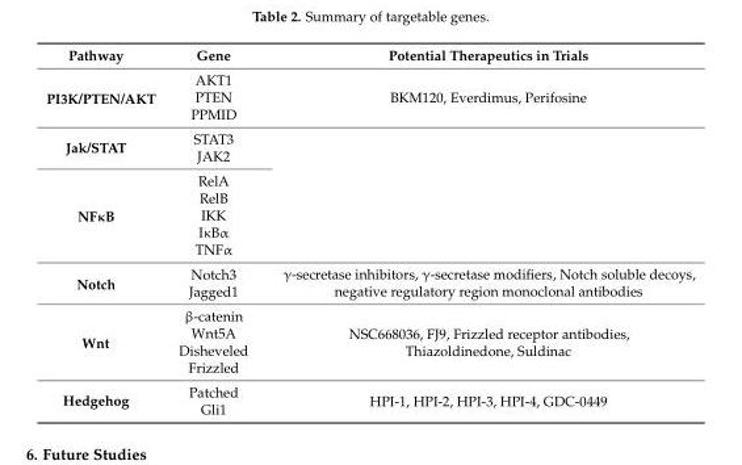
<table><thead><tr><td>Pathway</td><td>Gene</td><td>Potential Therapeutics in Trials</td></tr></thead><tbody><tr><td rowspan="3">PI3K/PTEN/AKT</td><td>AKT1</td><td rowspan="3">BKM120, Everdimus, Perifosine</td></tr><tr><td>PTEN</td></tr><tr><td>PPMID</td></tr><tr><td rowspan="2">Jak/STAT</td><td>STAT3</td><td rowspan="7"></td></tr><tr><td>JAK2</td></tr><tr><td rowspan="5">NFκB</td><td>RelA</td></tr><tr><td>RelB</td></tr><tr><td>IKK</td></tr><tr><td>IκBα</td></tr><tr><td>TNFα</td></tr><tr><td rowspan="2">Notch</td><td>Notch3</td><td rowspan="2">γ-secretase inhibitors, γ-secretase modifiers, Notch soluble decoys, negative regulatory region monoclonal antibodies</td></tr><tr><td>Jagged1</td></tr><tr><td rowspan="4">Wnt</td><td>β-catenin</td><td rowspan="4">NSC668036, FJ9, Frizzled receptor antibodies, Thiazoldinedone, Suldinac</td></tr><tr><td>Wnt5A</td></tr><tr><td>Disheveled</td></tr><tr><td>Frizzled</td></tr><tr><td rowspan="2">Hedgehog</td><td>Patched</td><td rowspan="2">HPI-1, HPI-2, HPI-3, HPI-4, GDC-0449</td></tr><tr><td>Gli1</td></tr></tbody></table>